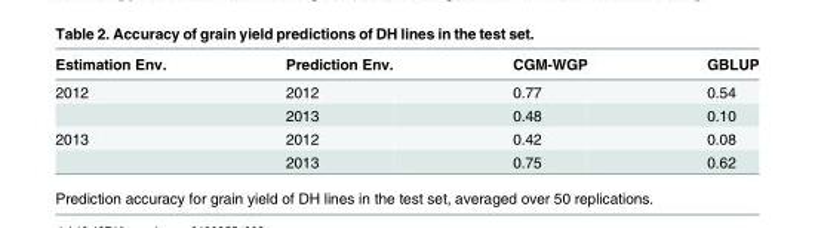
<table><thead><tr><td>Estimation Env.</td><td>Prediction Env.</td><td>CGM-WGP</td><td>GBLUP</td></tr></thead><tbody><tr><td rowspan="2">2012</td><td>2012</td><td>0.77</td><td>0.54</td></tr><tr><td>2013</td><td>0.48</td><td>0.10</td></tr><tr><td rowspan="2">2013</td><td>2012</td><td>0.42</td><td>0.08</td></tr><tr><td>2013</td><td>0.75</td><td>0.62</td></tr></tbody></table>